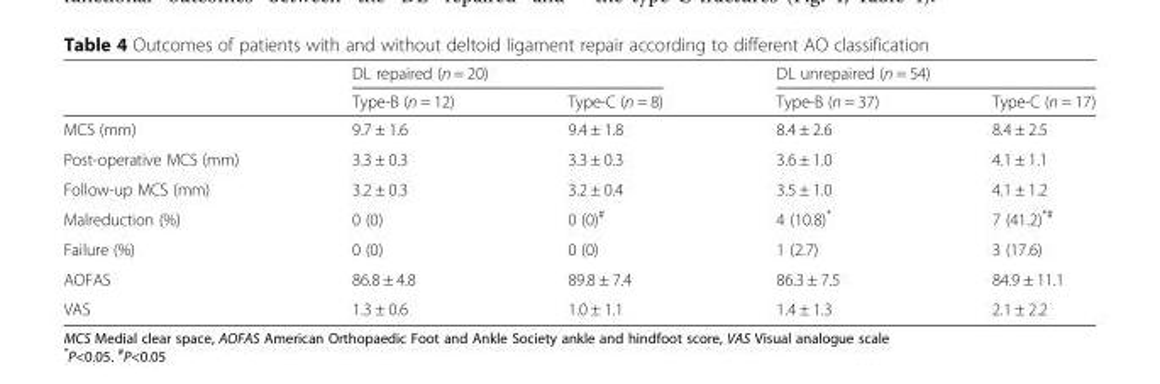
<table><thead><tr><td rowspan="2"></td><td colspan="2">DL repaired (n = 20)</td><td colspan="2">DL unrepaired (n = 54)</td></tr><tr><td>Type-B (n = 12)</td><td>Type-C (n = 8)</td><td>Type-B (n = 37)</td><td>Type-C (n = 17)</td></tr></thead><tbody><tr><td>MCS (mm)</td><td>9.7 ± 1.6</td><td>9.4 ± 1.8</td><td>8.4 ± 2.6</td><td>8.4 ± 2.5</td></tr><tr><td>Post-operative MCS (mm)</td><td>3.3 ± 0.3</td><td>3.3 ± 0.3</td><td>3.6 ± 1.0</td><td>4.1 ± 1.1</td></tr><tr><td>Follow-up MCS (mm)</td><td>3.2 ± 0.3</td><td>3.2 ± 0.4</td><td>3.5 ± 1.0</td><td>4.1 ± 1.2</td></tr><tr><td>Malreduction (%)</td><td>0 (0)</td><td>0 (0)<sup>#</sup></td><td>4 (10.8)*</td><td>7 (41.2)<sup>*#</sup></td></tr><tr><td>Failure (%)</td><td>0 (0)</td><td>0 (0)</td><td>1 (2.7)</td><td>3 (17.6)</td></tr><tr><td>AOFAS</td><td>86.8 ± 4.8</td><td>89.8 ± 7.4</td><td>86.3 ± 7.5</td><td>84.9 ± 11.1</td></tr><tr><td>VAS</td><td>1.3 ± 0.6</td><td>1.0 ± 1.1</td><td>1.4 ± 1.3</td><td>2.1 ± 2.2</td></tr></tbody></table>